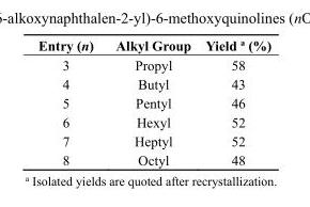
<table><thead><tr><td>Entry (n)</td><td>Alkyl Group</td><td>Yield <sup>a</sup> (%)</td></tr></thead><tbody><tr><td>3</td><td>Propyl</td><td>58</td></tr><tr><td>4</td><td>Butyl</td><td>43</td></tr><tr><td>5</td><td>Pentyl</td><td>46</td></tr><tr><td>6</td><td>Hexyl</td><td>52</td></tr><tr><td>7</td><td>Heptyl</td><td>52</td></tr><tr><td>8</td><td>Octyl</td><td>48</td></tr></tbody></table>